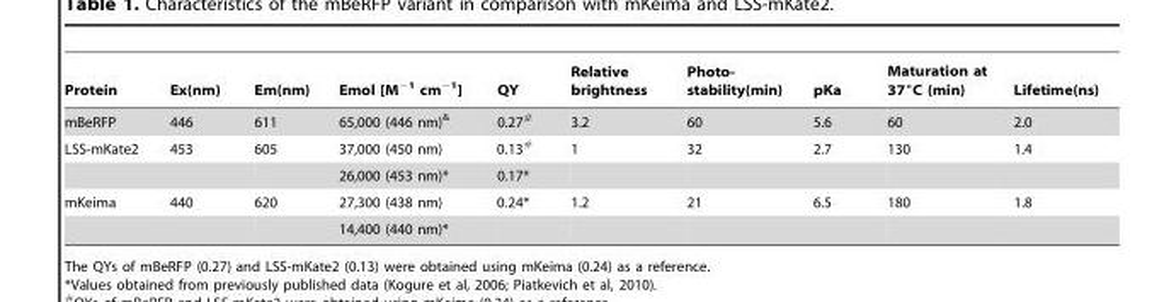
<table><thead><tr><td>Protein</td><td>Ex(nm)</td><td>Em(nm)</td><td>Emol [M<sup>−1</sup> cm<sup>−1</sup>]</td><td>QY</td><td>Relative brightness</td><td>Photo- stability(min)</td><td>pKa</td><td>Maturation at 37°C (min)</td><td>Lifetime(ns)</td></tr></thead><tbody><tr><td>mBeRFP</td><td>446</td><td>611</td><td>65,000 (446 nm)&amp;</td><td>0.27#</td><td>3.2</td><td>60</td><td>5.6</td><td>60</td><td>2.0</td></tr><tr><td rowspan="2">LSS-mKate2</td><td>453</td><td>605</td><td>37,000 (450 nm)</td><td>0.13#</td><td>1</td><td>32</td><td>2.7</td><td>130</td><td>1.4</td></tr><tr><td></td><td></td><td>26,000 (453 nm)*</td><td>0.17*</td><td></td><td></td><td></td><td></td><td></td></tr><tr><td rowspan="2">mKeima</td><td>440</td><td>620</td><td>27,300 (438 nm)</td><td>0.24*</td><td>1.2</td><td>21</td><td>6.5</td><td>180</td><td>1.8</td></tr><tr><td></td><td></td><td>14,400 (440 nm)*</td><td></td><td></td><td></td><td></td><td></td><td></td></tr></tbody></table>